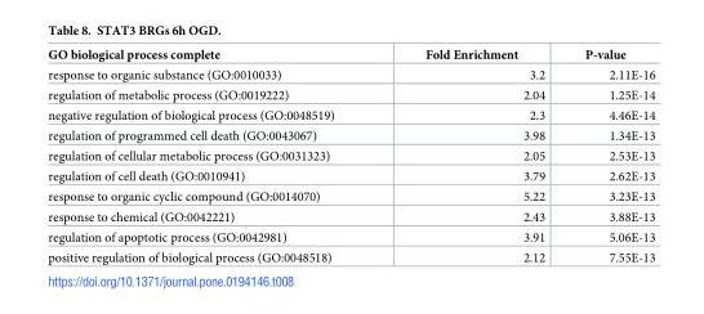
<table><thead><tr><td>GO biological process complete</td><td>Fold Enrichment</td><td>P-value</td></tr></thead><tbody><tr><td>response to organic substance (GO:0010033)</td><td>3.2</td><td>2.11E-16</td></tr><tr><td>regulation of metabolic process (GO:0019222)</td><td>2.04</td><td>1.25E-14</td></tr><tr><td>negative regulation of biological process (GO:0048519)</td><td>2.3</td><td>4.46E-14</td></tr><tr><td>regulation of programmed cell death (GO:0043067)</td><td>3.98</td><td>1.34E-13</td></tr><tr><td>regulation of cellular metabolic process (GO:0031323)</td><td>2.05</td><td>2.53E-13</td></tr><tr><td>regulation of cell death (GO:0010941)</td><td>3.79</td><td>2.62E-13</td></tr><tr><td>response to organic cyclic compound (GO:0014070)</td><td>5.22</td><td>3.23E-13</td></tr><tr><td>response to chemical (GO:0042221)</td><td>2.43</td><td>3.88E-13</td></tr><tr><td>regulation of apoptotic process (GO:0042981)</td><td>3.91</td><td>5.06E-13</td></tr><tr><td>positive regulation of biological process (GO:0048518)</td><td>2.12</td><td>7.55E-13</td></tr></tbody></table>